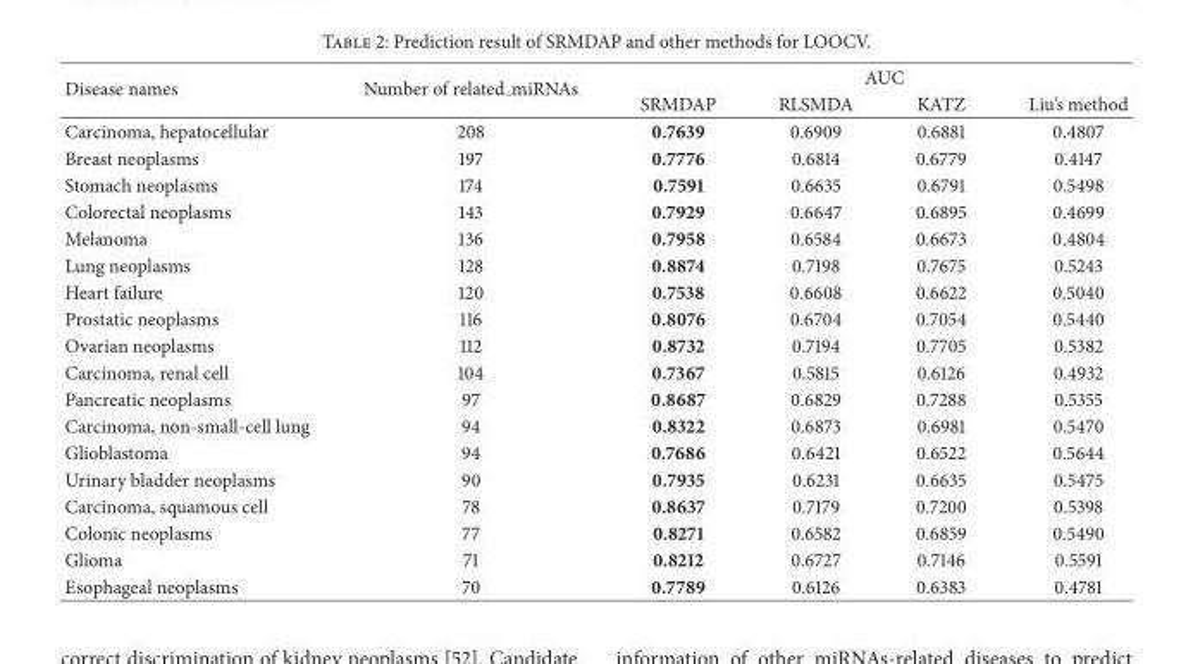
<table><thead><tr><td rowspan="2">Disease names</td><td rowspan="2">Number of related miRNAs</td><td colspan="4">AUC</td></tr><tr><td>SRMDAP</td><td>RLSMDA</td><td>KATZ</td><td>Liu’s method</td></tr></thead><tbody><tr><td>Carcinoma, hepatocellular</td><td>208</td><td>0.7639</td><td>0.6909</td><td>0.6881</td><td>0.4807</td></tr><tr><td>Breast neoplasms</td><td>197</td><td>0.7776</td><td>0.6814</td><td>0.6779</td><td>0.4147</td></tr><tr><td>Stomach neoplasms</td><td>174</td><td>0.7591</td><td>0.6635</td><td>0.6791</td><td>0.5498</td></tr><tr><td>Colorectal neoplasms</td><td>143</td><td>0.7929</td><td>0.6647</td><td>0.6895</td><td>0.4699</td></tr><tr><td>Melanoma</td><td>136</td><td>0.7958</td><td>0.6584</td><td>0.6673</td><td>0.4804</td></tr><tr><td>Lung neoplasms</td><td>128</td><td>0.8874</td><td>0.7198</td><td>0.7675</td><td>0.5243</td></tr><tr><td>Heart failure</td><td>120</td><td>0.7538</td><td>0.6608</td><td>0.6622</td><td>0.5040</td></tr><tr><td>Prostatic neoplasms</td><td>116</td><td>0.8076</td><td>0.6704</td><td>0.7054</td><td>0.5440</td></tr><tr><td>Ovarian neoplasms</td><td>112</td><td>0.8732</td><td>0.7194</td><td>0.7705</td><td>0.5382</td></tr><tr><td>Carcinoma, renal cell</td><td>104</td><td>0.7367</td><td>0.5815</td><td>0.6126</td><td>0.4932</td></tr><tr><td>Pancreatic neoplasms</td><td>97</td><td>0.8687</td><td>0.6829</td><td>0.7288</td><td>0.5355</td></tr><tr><td>Carcinoma, non-small-cell lung</td><td>94</td><td>0.8322</td><td>0.6873</td><td>0.6981</td><td>0.5470</td></tr><tr><td>Glioblastoma</td><td>94</td><td>0.7686</td><td>0.6421</td><td>0.6522</td><td>0.5644</td></tr><tr><td>Urinary bladder neoplasms</td><td>90</td><td>0.7935</td><td>0.6231</td><td>0.6635</td><td>0.5475</td></tr><tr><td>Carcinoma, squamous cell</td><td>78</td><td>0.8637</td><td>0.7179</td><td>0.7200</td><td>0.5398</td></tr><tr><td>Colonic neoplasms</td><td>77</td><td>0.8271</td><td>0.6582</td><td>0.6859</td><td>0.5490</td></tr><tr><td>Glioma</td><td>71</td><td>0.8212</td><td>0.6727</td><td>0.7146</td><td>0.5591</td></tr><tr><td>Esophageal neoplasms</td><td>70</td><td>0.7789</td><td>0.6126</td><td>0.6383</td><td>0.4781</td></tr></tbody></table>